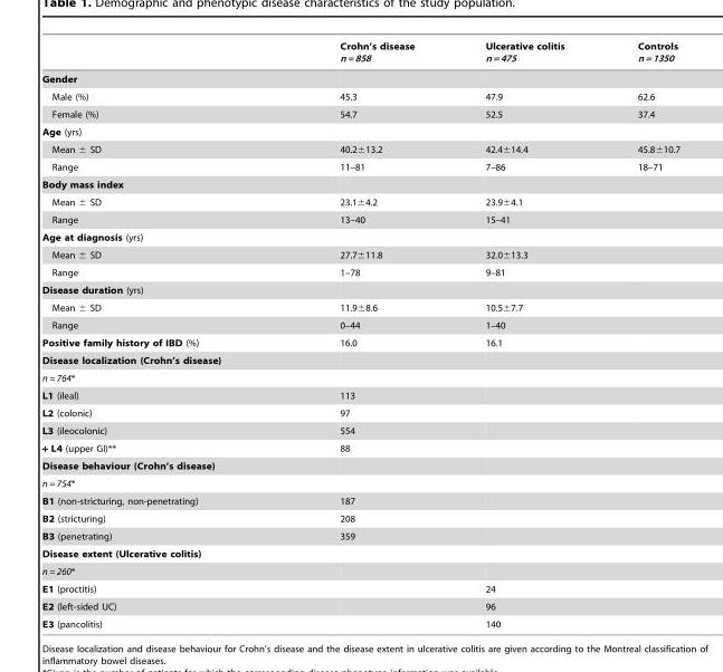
<table><thead><tr><td></td><td>Crohn’s disease n = 858</td><td>Ulcerative colitis n = 475</td><td>Controls n = 1350</td></tr></thead><tbody><tr><td colspan="4">Gender</td></tr><tr><td>Male (%)</td><td>45.3</td><td>47.9</td><td>62.6</td></tr><tr><td>Female (%)</td><td>54.7</td><td>52.5</td><td>37.4</td></tr><tr><td colspan="4">Age (yrs)</td></tr><tr><td>Mean ± SD</td><td>40.2±13.2</td><td>42.4±14.4</td><td>45.8±10.7</td></tr><tr><td>Range</td><td>11–81</td><td>7–86</td><td>18–71</td></tr><tr><td colspan="4">Body mass index</td></tr><tr><td>Mean ± SD</td><td>23.1±4.2</td><td>23.9±4.1</td><td></td></tr><tr><td>Range</td><td>13–40</td><td>15–41</td><td></td></tr><tr><td colspan="4">Age at diagnosis (yrs)</td></tr><tr><td>Mean ± SD</td><td>27.7±11.8</td><td>32.0±13.3</td><td></td></tr><tr><td>Range</td><td>1–78</td><td>9–81</td><td></td></tr><tr><td colspan="4">Disease duration (yrs)</td></tr><tr><td>Mean ± SD</td><td>11.9±8.6</td><td>10.5±7.7</td><td></td></tr><tr><td>Range</td><td>0–44</td><td>1–40</td><td></td></tr><tr><td>Positive family history of IBD (%)</td><td>16.0</td><td>16.1</td><td></td></tr><tr><td colspan="4">Disease localization (Crohn’s disease)</td></tr><tr><td colspan="4">n = 764*</td></tr><tr><td>L1 (ileal)</td><td>113</td><td></td><td></td></tr><tr><td>L2 (colonic)</td><td>97</td><td></td><td></td></tr><tr><td>L3 (ileocolonic)</td><td>554</td><td></td><td></td></tr><tr><td>+ L4 (upper GI)**</td><td>88</td><td></td><td></td></tr><tr><td colspan="4">Disease behaviour (Crohn’s disease)</td></tr><tr><td colspan="4">n = 754*</td></tr><tr><td>B1 (non-stricturing, non-penetrating)</td><td>187</td><td></td><td></td></tr><tr><td>B2 (stricturing)</td><td>208</td><td></td><td></td></tr><tr><td>B3 (penetrating)</td><td>359</td><td></td><td></td></tr><tr><td colspan="4">Disease extent (Ulcerative colitis)</td></tr><tr><td colspan="4">n = 260*</td></tr><tr><td>E1 (proctitis)</td><td></td><td>24</td><td></td></tr><tr><td>E2 (left-sided UC)</td><td></td><td>96</td><td></td></tr><tr><td>E3 (pancolitis)</td><td></td><td>140</td><td></td></tr></tbody></table>